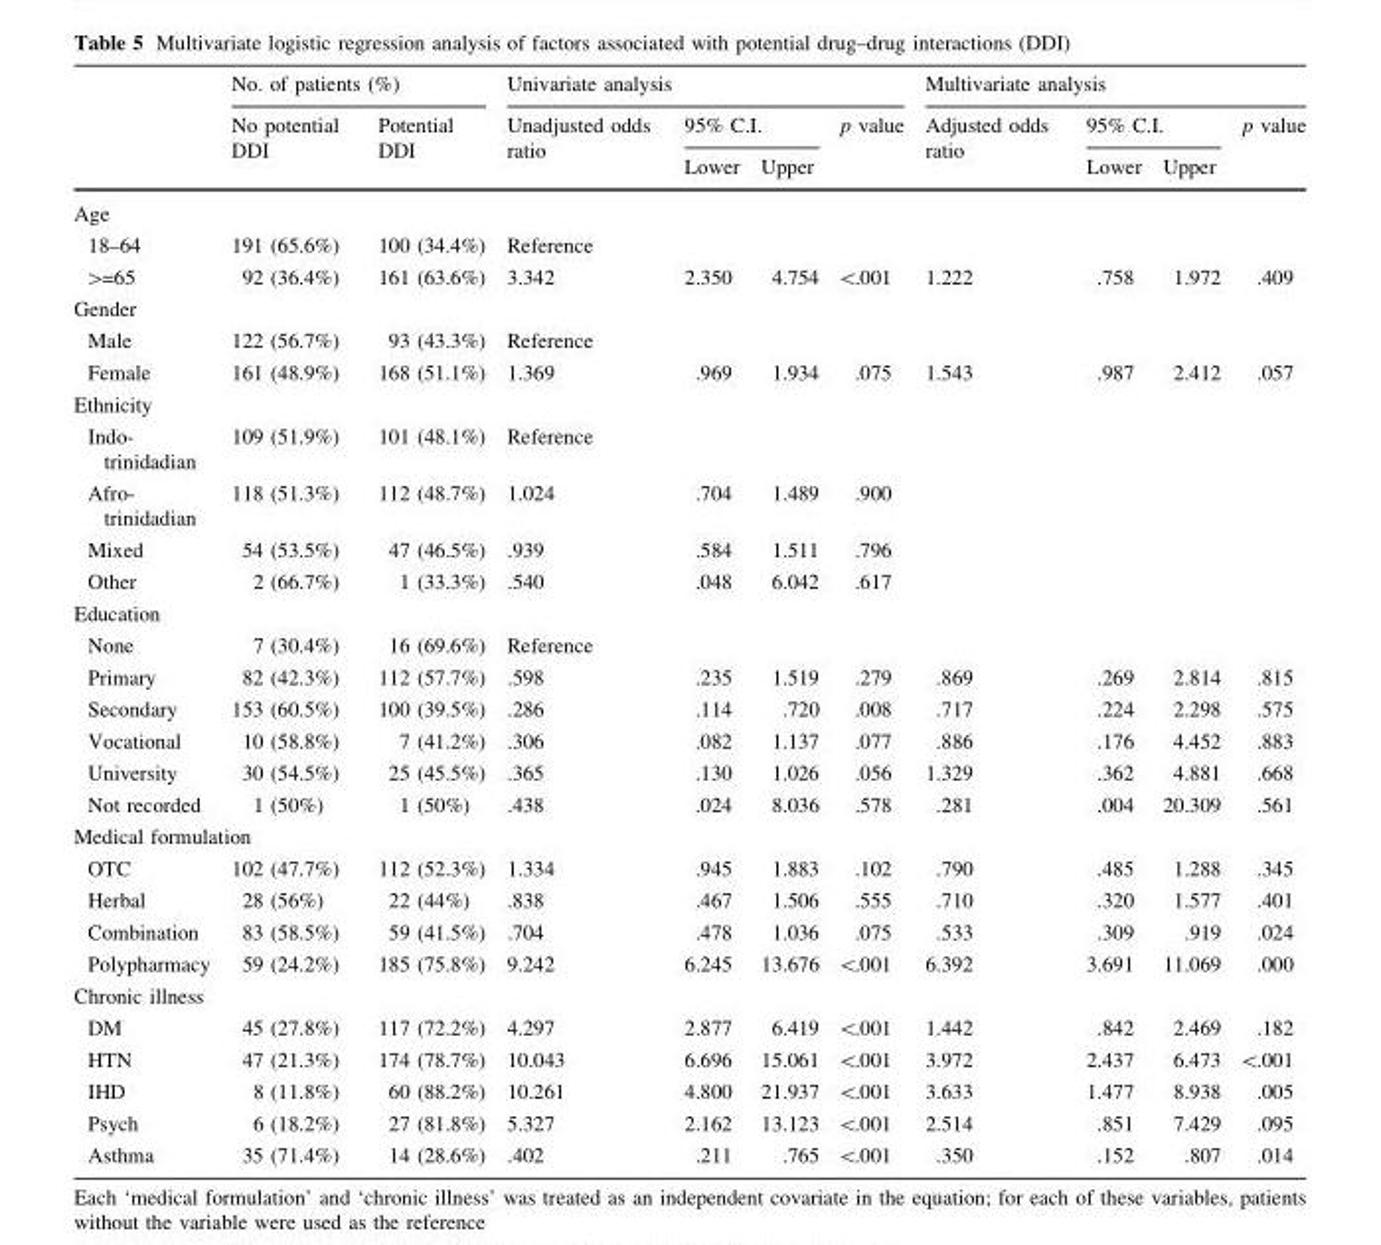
<table><thead><tr><td rowspan="3"></td><td colspan="2">No. of patients (%)</td><td colspan="4">Univariate analysis</td><td colspan="4">Multivariate analysis</td></tr><tr><td rowspan="2">No potential DDI</td><td rowspan="2">Potential DDI</td><td rowspan="2">Unadjusted odds ratio</td><td colspan="2">95% C.I.</td><td rowspan="2">p value</td><td rowspan="2">Adjusted odds ratio</td><td colspan="2">95% C.I.</td><td rowspan="2">p value</td></tr><tr><td>Lower</td><td>Upper</td><td>Lower</td><td>Upper</td></tr></thead><tbody><tr><td colspan="11">Age</td></tr><tr><td>18–64</td><td>191 (65.6%)</td><td>100 (34.4%)</td><td>Reference</td><td></td><td></td><td></td><td></td><td></td><td></td><td></td></tr><tr><td>&gt;=65</td><td>92 (36.4%)</td><td>161 (63.6%)</td><td>3.342</td><td>2.350</td><td>4.754</td><td>&lt;.001</td><td>1.222</td><td>.758</td><td>1.972</td><td>.409</td></tr><tr><td colspan="11">Gender</td></tr><tr><td>Male</td><td>122 (56.7%)</td><td>93 (43.3%)</td><td>Reference</td><td></td><td></td><td></td><td></td><td></td><td></td><td></td></tr><tr><td>Female</td><td>161 (48.9%)</td><td>168 (51.1%)</td><td>1.369</td><td>.969</td><td>1.934</td><td>.075</td><td>1.543</td><td>.987</td><td>2.412</td><td>.057</td></tr><tr><td colspan="11">Ethnicity</td></tr><tr><td>Indo- trinidadian</td><td>109 (51.9%)</td><td>101 (48.1%)</td><td>Reference</td><td></td><td></td><td></td><td></td><td></td><td></td><td></td></tr><tr><td>Afro- trinidadian</td><td>118 (51.3%)</td><td>112 (48.7%)</td><td>1.024</td><td>.704</td><td>1.489</td><td>.900</td><td></td><td></td><td></td><td></td></tr><tr><td>Mixed</td><td>54 (53.5%)</td><td>47 (46.5%)</td><td>.939</td><td>.584</td><td>1.511</td><td>.796</td><td></td><td></td><td></td><td></td></tr><tr><td>Other</td><td>2 (66.7%)</td><td>1 (33.3%)</td><td>.540</td><td>.048</td><td>6.042</td><td>.617</td><td></td><td></td><td></td><td></td></tr><tr><td colspan="11">Education</td></tr><tr><td>None</td><td>7 (30.4%)</td><td>16 (69.6%)</td><td>Reference</td><td></td><td></td><td></td><td></td><td></td><td></td><td></td></tr><tr><td>Primary</td><td>82 (42.3%)</td><td>112 (57.7%)</td><td>.598</td><td>.235</td><td>1.519</td><td>.279</td><td>.869</td><td>.269</td><td>2.814</td><td>.815</td></tr><tr><td>Secondary</td><td>153 (60.5%)</td><td>100 (39.5%)</td><td>.286</td><td>.114</td><td>.720</td><td>.008</td><td>.717</td><td>.224</td><td>2.298</td><td>.575</td></tr><tr><td>Vocational</td><td>10 (58.8%)</td><td>7 (41.2%)</td><td>.306</td><td>.082</td><td>1.137</td><td>.077</td><td>.886</td><td>.176</td><td>4.452</td><td>.883</td></tr><tr><td>University</td><td>30 (54.5%)</td><td>25 (45.5%)</td><td>.365</td><td>.130</td><td>1.026</td><td>.056</td><td>1.329</td><td>.362</td><td>4.881</td><td>.668</td></tr><tr><td>Not recorded</td><td>1 (50%)</td><td>1 (50%)</td><td>.438</td><td>.024</td><td>8.036</td><td>.578</td><td>.281</td><td>.004</td><td>20.309</td><td>.561</td></tr><tr><td colspan="11">Medical formulation</td></tr><tr><td>OTC</td><td>102 (47.7%)</td><td>112 (52.3%)</td><td>1.334</td><td>.945</td><td>1.883</td><td>.102</td><td>.790</td><td>.485</td><td>1.288</td><td>.345</td></tr><tr><td>Herbal</td><td>28 (56%)</td><td>22 (44%)</td><td>.838</td><td>.467</td><td>1.506</td><td>.555</td><td>.710</td><td>.320</td><td>1.577</td><td>.401</td></tr><tr><td>Combination</td><td>83 (58.5%)</td><td>59 (41.5%)</td><td>.704</td><td>.478</td><td>1.036</td><td>.075</td><td>.533</td><td>.309</td><td>.919</td><td>.024</td></tr><tr><td>Polypharmacy</td><td>59 (24.2%)</td><td>185 (75.8%)</td><td>9.242</td><td>6.245</td><td>13.676</td><td>&lt;.001</td><td>6.392</td><td>3.691</td><td>11.069</td><td>.000</td></tr><tr><td colspan="11">Chronic illness</td></tr><tr><td>DM</td><td>45 (27.8%)</td><td>117 (72.2%)</td><td>4.297</td><td>2.877</td><td>6.419</td><td>&lt;.001</td><td>1.442</td><td>.842</td><td>2.469</td><td>.182</td></tr><tr><td>HTN</td><td>47 (21.3%)</td><td>174 (78.7%)</td><td>10.043</td><td>6.696</td><td>15.061</td><td>&lt;.001</td><td>3.972</td><td>2.437</td><td>6.473</td><td>&lt;.001</td></tr><tr><td>IHD</td><td>8 (11.8%)</td><td>60 (88.2%)</td><td>10.261</td><td>4.800</td><td>21.937</td><td>&lt;.001</td><td>3.633</td><td>1.477</td><td>8.938</td><td>.005</td></tr><tr><td>Psych</td><td>6 (18.2%)</td><td>27 (81.8%)</td><td>5.327</td><td>2.162</td><td>13.123</td><td>&lt;.001</td><td>2.514</td><td>.851</td><td>7.429</td><td>.095</td></tr><tr><td>Asthma</td><td>35 (71.4%)</td><td>14 (28.6%)</td><td>.402</td><td>.211</td><td>.765</td><td>&lt;.001</td><td>.350</td><td>.152</td><td>.807</td><td>.014</td></tr></tbody></table>